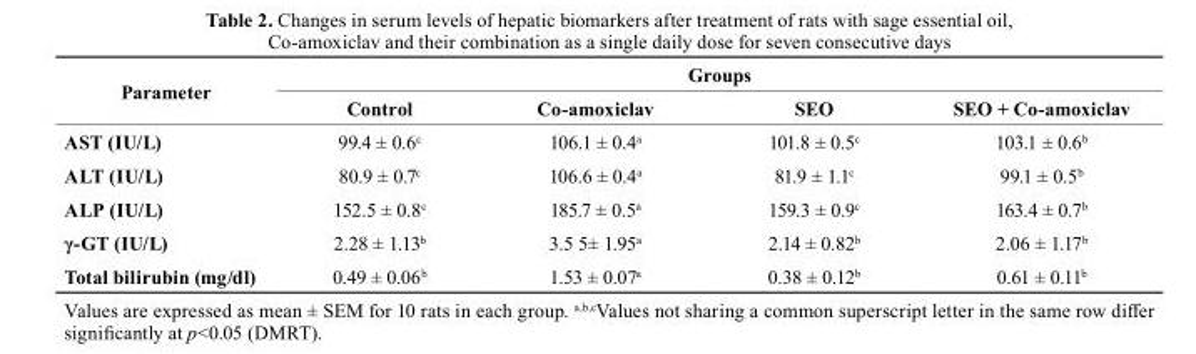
<table><thead><tr><td rowspan="2">Parameter</td><td colspan="4">Groups</td></tr><tr><td>control</td><td>co-amoxiclav</td><td>SEO</td><td>SEO + Co-amoxiclav</td></tr></thead><tbody><tr><td>AST (IU/L)</td><td>99.4 ± 0.6<sup>c</sup></td><td>106.1 ± 0.4<sup>a</sup></td><td>101.8 ± 0.5<sup>c</sup></td><td>103.1 ± 0.6<sup>b</sup></td></tr><tr><td>ALT (IU/L)</td><td>80.9 ± 0.7<sup>c</sup></td><td>106.6 ± 0.4<sup>a</sup></td><td>81.9 ± 1.1<sup>c</sup></td><td>99.1 ± 0.5<sup>b</sup></td></tr><tr><td>ALP (IU/L)</td><td>152.5 ± 0.8<sup>c</sup></td><td>185.7 ± 0.5<sup>a</sup></td><td>159.3 ± 0.9<sup>c</sup></td><td>163.4 ± 0.7<sup>b</sup></td></tr><tr><td>γ-GT (IU/L)</td><td>2.28 ± 1.13<sup>b</sup></td><td>3.5 5± 1.95<sup>a</sup></td><td>2.14 ± 0.82<sup>b</sup></td><td>2.06 ± 1.17<sup>b</sup></td></tr><tr><td>Total bilirubin (mg/dl)</td><td>0.49 ± 0.06<sup>b</sup></td><td>1.53 ± 0.07<sup>a</sup></td><td>0.38 ± 0.12<sup>b</sup></td><td>0.61 ± 0.11<sup>b</sup></td></tr></tbody></table>